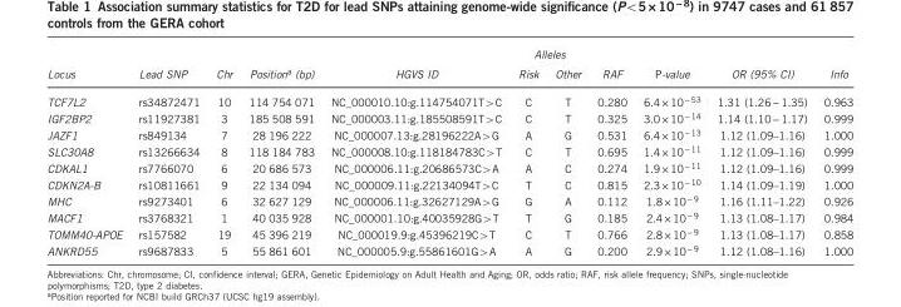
<table><thead><tr><td rowspan="2">Locus</td><td rowspan="2">Lead SNP</td><td rowspan="2">Chr</td><td rowspan="2">Position<sup>a</sup> (bp)</td><td rowspan="2">HGVS ID</td><td colspan="2">Alleles</td><td rowspan="2">RAF</td><td rowspan="2">P-value</td><td rowspan="2">OR (95% CI)</td><td rowspan="2">Info</td></tr><tr><td>Risk</td><td>Other</td></tr></thead><tbody><tr><td>TCF7L2</td><td>rs34872471</td><td>10</td><td>114 754 071</td><td>NC_000010.10:g.114754071T&gt;C</td><td>C</td><td>T</td><td>0.280</td><td>6.4 × 10<sup>− 53</sup></td><td>1.31 (1.26− 1.35)</td><td>0.963</td></tr><tr><td>IGF2BP2</td><td>rs11927381</td><td>3</td><td>185 508 591</td><td>NC_000003.11:g.185508591T&gt;C</td><td>C</td><td>T</td><td>0.325</td><td>3.0 × 10<sup>− 14</sup></td><td>1.14 (1.10− 1.17)</td><td>0.999</td></tr><tr><td>JAZF1</td><td>rs849134</td><td>7</td><td>28 196 222</td><td>NC_000007.13:g.28196222A&gt;G</td><td>A</td><td>G</td><td>0.531</td><td>6.4 × 10<sup>− 13</sup></td><td>1.12 (1.09–1.16)</td><td>1.000</td></tr><tr><td>SLC30A8</td><td>rs13266634</td><td>8</td><td>118 184 783</td><td>NC_000008.10:g.118184783C&gt;T</td><td>C</td><td>T</td><td>0.695</td><td>1.4 × 10<sup>− 11</sup></td><td>1.12 (1.09–1.16)</td><td>0.999</td></tr><tr><td>CDKAL1</td><td>rs7766070</td><td>6</td><td>20 686 573</td><td>NC_000006.11:g.20686573C&gt;A</td><td>A</td><td>C</td><td>0.274</td><td>1.9 × 10<sup>− 11</sup></td><td>1.12 (1.09–1.16)</td><td>0.999</td></tr><tr><td>CDKN2A-B</td><td>rs10811661</td><td>9</td><td>22 134 094</td><td>NC_000009.11:g.22134094T&gt;C</td><td>T</td><td>C</td><td>0.815</td><td>2.3 × 10<sup>− 10</sup></td><td>1.14 (1.09–1.19)</td><td>1.000</td></tr><tr><td>MHC</td><td>rs9273401</td><td>6</td><td>32 627 129</td><td>NC_000006.11:g.32627129A&gt;G</td><td>G</td><td>A</td><td>0.112</td><td>1.8 × 10<sup>− 9</sup></td><td>1.16 (1.11–1.22)</td><td>0.926</td></tr><tr><td>MACF1</td><td>rs3768321</td><td>1</td><td>40 035 928</td><td>NC_000001.10:g.40035928G&gt;T</td><td>T</td><td>G</td><td>0.185</td><td>2.4 × 10<sup>− 9</sup></td><td>1.13 (1.08–1.17)</td><td>0.984</td></tr><tr><td>TOMM40-APOE</td><td>rs157582</td><td>19</td><td>45 396 219</td><td>NC_000019.9:g.45396219C&gt;T</td><td>C</td><td>T</td><td>0.766</td><td>2.8 × 10<sup>− 9</sup></td><td>1.13 (1.08–1.17)</td><td>0.858</td></tr><tr><td>ANKRD55</td><td>rs9687833</td><td>5</td><td>55 861 601</td><td>NC_000005.9:g.55861601G&gt;A</td><td>A</td><td>G</td><td>0.200</td><td>2.9 × 10<sup>− 9</sup></td><td>1.12 (1.08–1.16)</td><td>1.000</td></tr></tbody></table>